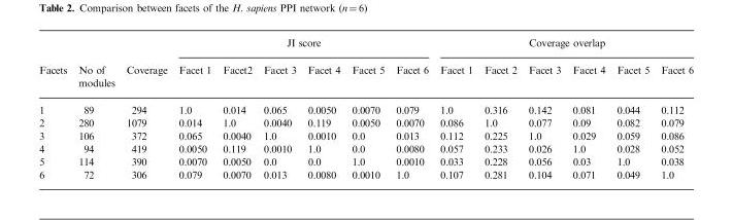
<table><thead><tr><td rowspan="2">Facets</td><td rowspan="2">No of modules</td><td rowspan="2">Coverage</td><td colspan="6">JI score</td><td colspan="6">Coverage overlap</td></tr><tr><td>Facet 1</td><td>Facet2</td><td>Facet 3</td><td>Facet 4</td><td>Facet 5</td><td>Facet 6</td><td>Facet 1</td><td>Facet 2</td><td>Facet 3</td><td>Facet 4</td><td>Facet 5</td><td>Facet 6</td></tr></thead><tbody><tr><td>1</td><td>89</td><td>294</td><td>1.0</td><td>0.014</td><td>0.065</td><td>0.0050</td><td>0.0070</td><td>0.079</td><td>1.0</td><td>0.316</td><td>0.142</td><td>0.081</td><td>0.044</td><td>0.112</td></tr><tr><td>2</td><td>280</td><td>1079</td><td>0.014</td><td>1.0</td><td>0.0040</td><td>0.119</td><td>0.0050</td><td>0.0070</td><td>0.086</td><td>1.0</td><td>0.077</td><td>0.09</td><td>0.082</td><td>0.079</td></tr><tr><td>3</td><td>106</td><td>372</td><td>0.065</td><td>0.0040</td><td>1.0</td><td>0.0010</td><td>0.0</td><td>0.013</td><td>0.112</td><td>0.225</td><td>1.0</td><td>0.029</td><td>0.059</td><td>0.086</td></tr><tr><td>4</td><td>94</td><td>419</td><td>0.0050</td><td>0.119</td><td>0.0010</td><td>1.0</td><td>0.0</td><td>0.0080</td><td>0.057</td><td>0.233</td><td>0.026</td><td>1.0</td><td>0.028</td><td>0.052</td></tr><tr><td>5</td><td>114</td><td>390</td><td>0.0070</td><td>0.0050</td><td>0.0</td><td>0.0</td><td>1.0</td><td>0.0010</td><td>0.033</td><td>0.228</td><td>0.056</td><td>0.03</td><td>1.0</td><td>0.038</td></tr><tr><td>6</td><td>72</td><td>306</td><td>0.079</td><td>0.0070</td><td>0.013</td><td>0.0080</td><td>0.0010</td><td>1.0</td><td>0.107</td><td>0.281</td><td>0.104</td><td>0.071</td><td>0.049</td><td>1.0</td></tr></tbody></table>